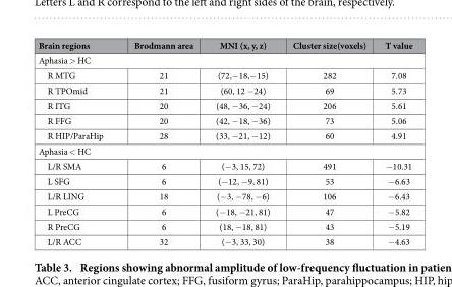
<table><thead><tr><td>Brain regions</td><td>Brodmann area</td><td>MNI (x, y, z)</td><td>Cluster size(voxels)</td><td>T value</td></tr></thead><tbody><tr><td colspan="5">Aphasia &gt; HC</td></tr><tr><td>R MTG</td><td>21</td><td>(72,−18,−15)</td><td>282</td><td>7.08</td></tr><tr><td>R TPOmid</td><td>21</td><td>(60, 12 −24)</td><td>69</td><td>5.73</td></tr><tr><td>R ITG</td><td>20</td><td>(48, −36, −24)</td><td>206</td><td>5.61</td></tr><tr><td>R FFG</td><td>20</td><td>(42, −18, −36)</td><td>73</td><td>5.06</td></tr><tr><td>R HIP/ParaHip</td><td>28</td><td>(33, −21, −12)</td><td>60</td><td>4.91</td></tr><tr><td colspan="5">Aphasia &lt; HC</td></tr><tr><td>L/R SMA</td><td>6</td><td>(−3, 15, 72)</td><td>491</td><td>−10.31</td></tr><tr><td>L SFG</td><td>6</td><td>(−12, −9, 81)</td><td>53</td><td>−6.63</td></tr><tr><td>L/R LING</td><td>18</td><td>(−3, −78, −6)</td><td>106</td><td>−6.43</td></tr><tr><td>L PreCG</td><td>6</td><td>(−18, −21, 81)</td><td>47</td><td>−5.82</td></tr><tr><td>R PreCG</td><td>6</td><td>(18, −18, 81)</td><td>43</td><td>−5.19</td></tr><tr><td>L/R ACC</td><td>32</td><td>(−3, 33, 30)</td><td>38</td><td>−4.63</td></tr></tbody></table>